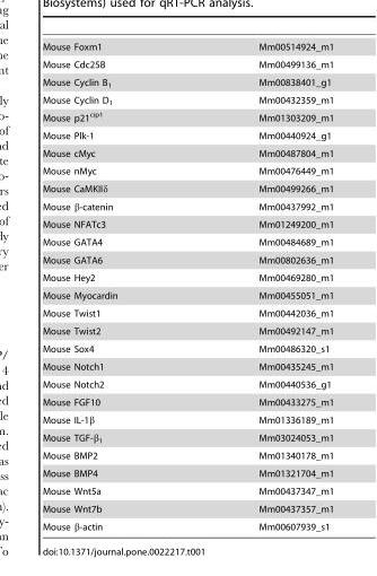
<table><tbody><tr><td>Mouse Foxm1</td><td>Mm00514924_m1</td></tr><tr><td>Mouse Cdc25B</td><td>Mm00499136_m1</td></tr><tr><td>Mouse Cyclin B<sub>1</sub></td><td>Mm00838401_g1</td></tr><tr><td>Mouse Cyclin D<sub>1</sub></td><td>Mm00432359_m1</td></tr><tr><td>Mouse p21<sup>cip1</sup></td><td>Mm01303209_m1</td></tr><tr><td>Mouse Plk-1</td><td>Mm00440924_g1</td></tr><tr><td>Mouse cMyc</td><td>Mm00487804_m1</td></tr><tr><td>Mouse nMyc</td><td>Mm00476449_m1</td></tr><tr><td>Mouse CaMKIIδ</td><td>Mm00499266_m1</td></tr><tr><td>Mouse β-catenin</td><td>Mm00437992_m1</td></tr><tr><td>Mouse NFATc3</td><td>Mm01249200_m1</td></tr><tr><td>Mouse GATA4</td><td>Mm00484689_m1</td></tr><tr><td>Mouse GATA6</td><td>Mm00802636_m1</td></tr><tr><td>Mouse Hey2</td><td>Mm00469280_m1</td></tr><tr><td>Mouse Myocardin</td><td>Mm00455051_m1</td></tr><tr><td>Mouse Twist1</td><td>Mm00442036_m1</td></tr><tr><td>Mouse Twist2</td><td>Mm00492147_m1</td></tr><tr><td>Mouse Sox4</td><td>Mm00486320_s1</td></tr><tr><td>Mouse Notch1</td><td>Mm00435245_m1</td></tr><tr><td>Mouse Notch2</td><td>Mm00440536_g1</td></tr><tr><td>Mouse FGF10</td><td>Mm00433275_m1</td></tr><tr><td>Mouse IL-1β</td><td>Mm01336189_m1</td></tr><tr><td>Mouse TGF-β<sub>1</sub></td><td>Mm03024053_m1</td></tr><tr><td>Mouse BMP2</td><td>Mm01340178_m1</td></tr><tr><td>Mouse BMP4</td><td>Mm01321704_m1</td></tr><tr><td>Mouse Wnt5a</td><td>Mm00437347_m1</td></tr><tr><td>Mouse Wnt7b</td><td>Mm00437357_m1</td></tr><tr><td>Mouse β-actin</td><td>Mm00607939_s1</td></tr></tbody></table>